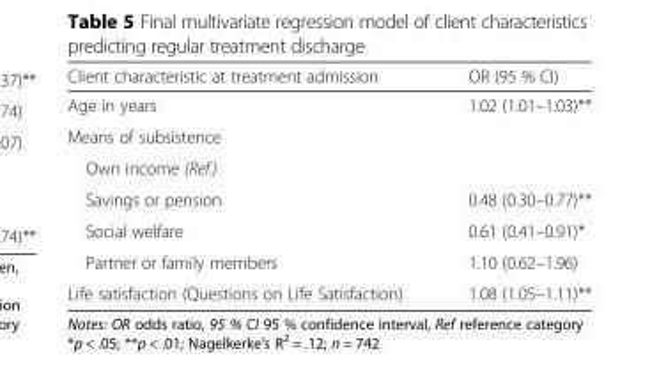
<table><thead><tr><td>Client characteristic at treatment admission</td><td>OR (95 % CI)</td></tr></thead><tbody><tr><td>Age in years</td><td>1.02 (1.01–1.03)**</td></tr><tr><td colspan="2">Means of subsistence</td></tr><tr><td colspan="2">Own income (Ref.)</td></tr><tr><td>Savings or pension</td><td>0.48 (0.30–0.77)**</td></tr><tr><td>Social welfare</td><td>0.61 (0.41–0.91)*</td></tr><tr><td>Partner or family members</td><td>1.10 (0.62–1.96)</td></tr><tr><td>Life satisfaction (Questions on Life Satisfaction)</td><td>1.08 (1.05–1.11)**</td></tr></tbody></table>